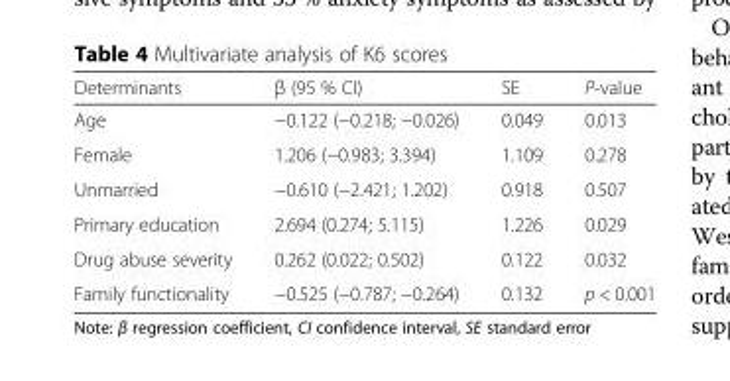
<table><thead><tr><td>Determinants</td><td>β (95 % CI)</td><td>SE</td><td>P-value</td></tr></thead><tbody><tr><td>Age</td><td>−0.122 (−0.218; −0.026)</td><td>0.049</td><td>0.013</td></tr><tr><td>Female</td><td>1.206 (−0.983; 3.394)</td><td>1.109</td><td>0.278</td></tr><tr><td>Unmarried</td><td>−0.610 (−2.421; 1.202)</td><td>0.918</td><td>0.507</td></tr><tr><td>Primary education</td><td>2.694 (0.274; 5.115)</td><td>1.226</td><td>0.029</td></tr><tr><td>Drug abuse severity</td><td>0.262 (0.022; 0.502)</td><td>0.122</td><td>0.032</td></tr><tr><td>Family functionality</td><td>−0.525 (−0.787; −0.264)</td><td>0.132</td><td>p &lt; 0.001</td></tr></tbody></table>